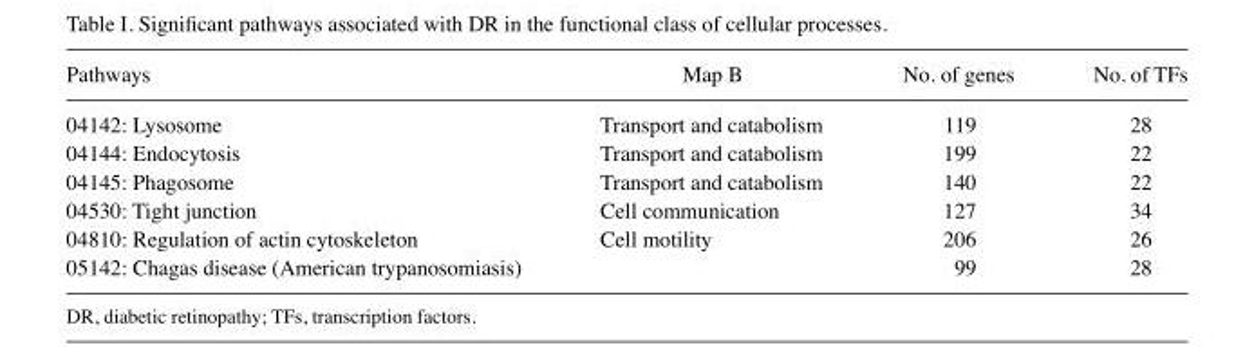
<table><thead><tr><td>Pathways</td><td>Map B</td><td>No. of genes</td><td>No. of TFs</td></tr></thead><tbody><tr><td>04142: Lysosome</td><td>Transport and catabolism</td><td>119</td><td>28</td></tr><tr><td>04144: Endocytosis</td><td>Transport and catabolism</td><td>199</td><td>22</td></tr><tr><td>04145: Phagosome</td><td>Transport and catabolism</td><td>140</td><td>22</td></tr><tr><td>04530: Tight junction</td><td>Cell communication</td><td>127</td><td>34</td></tr><tr><td>04810: Regulation of actin cytoskeleton</td><td>Cell motility</td><td>206</td><td>26</td></tr><tr><td>05142: Chagas disease (American trypanosomiasis)</td><td></td><td>99</td><td>28</td></tr></tbody></table>